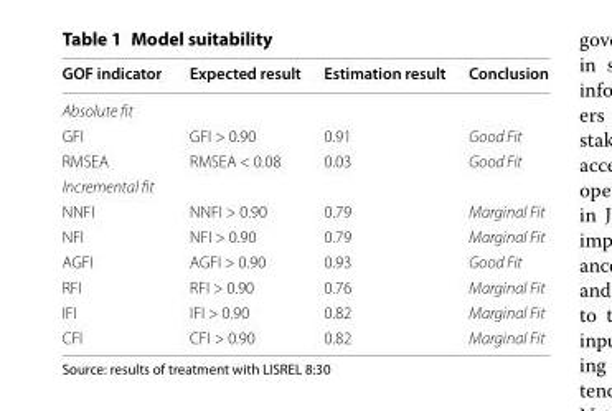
<table><thead><tr><td>GOF indicator</td><td>Expected result</td><td>Estimation result</td><td>Conclusion</td></tr></thead><tbody><tr><td colspan="4">Absolute fit</td></tr><tr><td>GFI</td><td>GFI &gt; 0.90</td><td>0.91</td><td>Good Fit</td></tr><tr><td>RMSEA</td><td>RMSEA &lt; 0.08</td><td>0.03</td><td>Good Fit</td></tr><tr><td colspan="4">Incremental fit</td></tr><tr><td>NNFI</td><td>NNFI &gt; 0.90</td><td>0.79</td><td>Marginal Fit</td></tr><tr><td>NFI</td><td>NFI &gt; 0.90</td><td>0.79</td><td>Marginal Fit</td></tr><tr><td>AGFI</td><td>AGFI &gt; 0.90</td><td>0.93</td><td>Good Fit</td></tr><tr><td>RFI</td><td>RFI &gt; 0.90</td><td>0.76</td><td>Marginal Fit</td></tr><tr><td>IFI</td><td>IFI &gt; 0.90</td><td>0.82</td><td>Marginal Fit</td></tr><tr><td>CFI</td><td>CFI &gt; 0.90</td><td>0.82</td><td>Marginal Fit</td></tr></tbody></table>